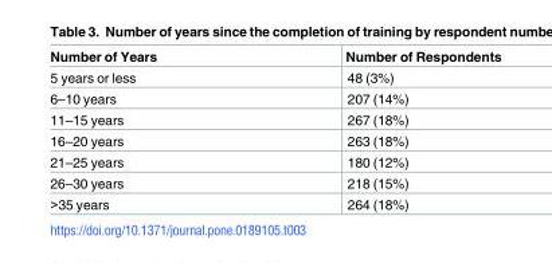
<table><thead><tr><td>Number of Years</td><td>Number of Respondents</td></tr></thead><tbody><tr><td>5 years or less</td><td>48 (3%)</td></tr><tr><td>6–10 years</td><td>207 (14%)</td></tr><tr><td>11–15 years</td><td>267 (18%)</td></tr><tr><td>16–20 years</td><td>263 (18%)</td></tr><tr><td>21–25 years</td><td>180 (12%)</td></tr><tr><td>26–30 years</td><td>218 (15%)</td></tr><tr><td>&gt;35 years</td><td>264 (18%)</td></tr></tbody></table>